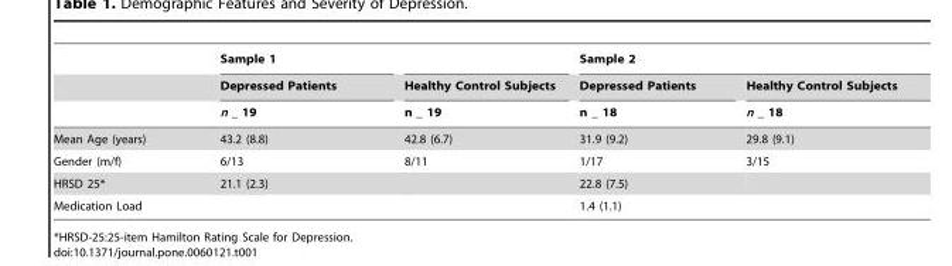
<table><thead><tr><td rowspan="3"></td><td rowspan="3">Sample 1 Depressed Patients n _ 19</td><td rowspan="3">Healthy Control Subjects n _ 19</td><td colspan="2">Sample 2</td></tr><tr><td rowspan="2">Depressed Patients n _ 18</td><td rowspan="2">Healthy Control Subjects n _ 18</td></tr><tr></tr></thead><tbody><tr><td>Mean Age (years)</td><td>43.2 (8.8)</td><td>42.8 (6.7)</td><td>31.9 (9.2)</td><td>29.8 (9.1)</td></tr><tr><td>Gender (m/f)</td><td>6/13</td><td>8/11</td><td>1/17</td><td>3/15</td></tr><tr><td>HRSD 25*</td><td>21.1 (2.3)</td><td></td><td>22.8 (7.5)</td><td></td></tr><tr><td>Medication Load</td><td></td><td></td><td>1.4 (1.1)</td><td></td></tr></tbody></table>